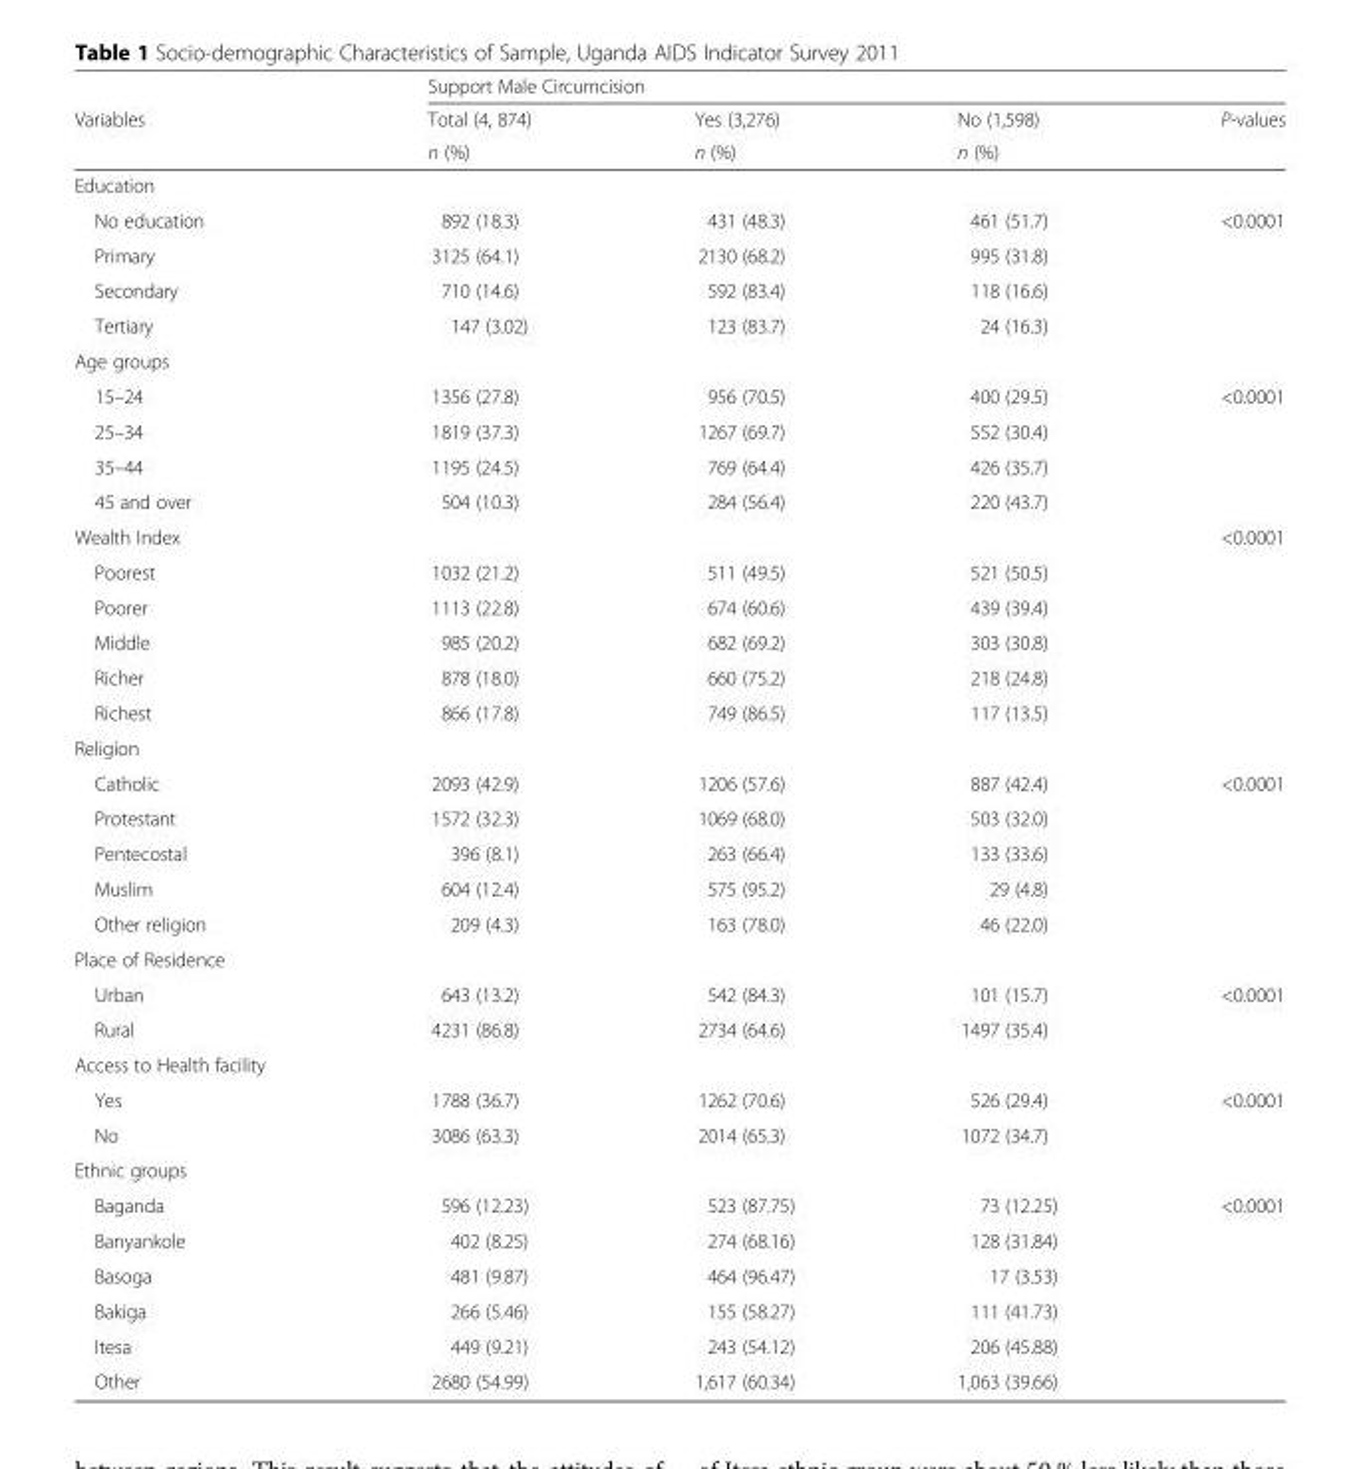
<table><thead><tr><td rowspan="3">Variables</td><td colspan="4">Support Male Circumcision</td></tr><tr><td rowspan="2">Total (4, 874) n (%)</td><td rowspan="2">Yes (3,276) n (%)</td><td rowspan="2">No (1,598) n (%)</td><td rowspan="2">P-values</td></tr><tr></tr></thead><tbody><tr><td colspan="5">Education</td></tr><tr><td>No education</td><td>892 (18.3)</td><td>431 (48.3)</td><td>461 (51.7)</td><td>&lt;0.0001</td></tr><tr><td>Primary</td><td>3125 (64.1)</td><td>2130 (68.2)</td><td>995 (31.8)</td><td></td></tr><tr><td>Secondary</td><td>710 (14.6)</td><td>592 (83.4)</td><td>118 (16.6)</td><td></td></tr><tr><td>Tertiary</td><td>147 (3.02)</td><td>123 (83.7)</td><td>24 (16.3)</td><td></td></tr><tr><td colspan="5">Age groups</td></tr><tr><td>15–24</td><td>1356 (27.8)</td><td>956 (70.5)</td><td>400 (29.5)</td><td>&lt;0.0001</td></tr><tr><td>25–34</td><td>1819 (37.3)</td><td>1267 (69.7)</td><td>552 (30.4)</td><td></td></tr><tr><td>35–44</td><td>1195 (24.5)</td><td>769 (64.4)</td><td>426 (35.7)</td><td></td></tr><tr><td>45 and over</td><td>504 (10.3)</td><td>284 (56.4)</td><td>220 (43.7)</td><td></td></tr><tr><td colspan="4">Wealth Index</td><td rowspan="2">&lt;0.0001</td></tr><tr><td>Poorest</td><td>1032 (21.2)</td><td>511 (49.5)</td><td>521 (50.5)</td></tr><tr><td>Poorer</td><td>1113 (22.8)</td><td>674 (60.6)</td><td>439 (39.4)</td><td></td></tr><tr><td>Middle</td><td>985 (20.2)</td><td>682 (69.2)</td><td>303 (30.8)</td><td></td></tr><tr><td>Richer</td><td>878 (18.0)</td><td>660 (75.2)</td><td>218 (24.8)</td><td></td></tr><tr><td>Richest</td><td>866 (17.8)</td><td>749 (86.5)</td><td>117 (13.5)</td><td></td></tr><tr><td colspan="5">Religion</td></tr><tr><td>Catholic</td><td>2093 (42.9)</td><td>1206 (57.6)</td><td>887 (42.4)</td><td>&lt;0.0001</td></tr><tr><td>Protestant</td><td>1572 (32.3)</td><td>1069 (68.0)</td><td>503 (32.0)</td><td></td></tr><tr><td>Pentecostal</td><td>396 (8.1)</td><td>263 (66.4)</td><td>133 (33.6)</td><td></td></tr><tr><td>Muslim</td><td>604 (12.4)</td><td>575 (95.2)</td><td>29 (4.8)</td><td></td></tr><tr><td>Other religion</td><td>209 (4.3)</td><td>163 (78.0)</td><td>46 (22.0)</td><td></td></tr><tr><td colspan="5">Place of Residence</td></tr><tr><td>Urban</td><td>643 (13.2)</td><td>542 (84.3)</td><td>101 (15.7)</td><td>&lt;0.0001</td></tr><tr><td>Rural</td><td>4231 (86.8)</td><td>2734 (64.6)</td><td>1497 (35.4)</td><td></td></tr><tr><td colspan="5">Access to Health facility</td></tr><tr><td>Yes</td><td>1788 (36.7)</td><td>1262 (70.6)</td><td>526 (29.4)</td><td>&lt;0.0001</td></tr><tr><td>No</td><td>3086 (63.3)</td><td>2014 (65.3)</td><td>1072 (34.7)</td><td></td></tr><tr><td colspan="5">Ethnic groups</td></tr><tr><td>Baganda</td><td>596 (12.23)</td><td>523 (87.75)</td><td>73 (12.25)</td><td>&lt;0.0001</td></tr><tr><td>Banyankole</td><td>402 (8.25)</td><td>274 (68.16)</td><td>128 (31.84)</td><td></td></tr><tr><td>Basoga</td><td>481 (9.87)</td><td>464 (96.47)</td><td>17 (3.53)</td><td></td></tr><tr><td>Bakiga</td><td>266 (5.46)</td><td>155 (58.27)</td><td>111 (41.73)</td><td></td></tr><tr><td>Itesa</td><td>449 (9.21)</td><td>243 (54.12)</td><td>206 (45.88)</td><td></td></tr><tr><td>Other</td><td>2680 (54.99)</td><td>1,617 (60.34)</td><td>1,063 (39.66)</td><td></td></tr></tbody></table>